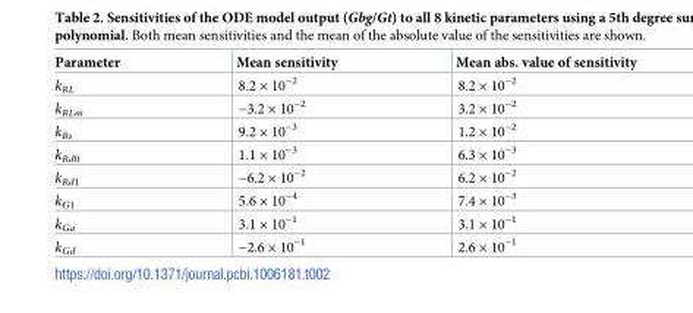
<table><thead><tr><td>Parameter</td><td>Mean sensitivity</td><td>Mean abs. value of sensitivity</td></tr></thead><tbody><tr><td>k<sub>RL</sub></td><td>8.2 × 10<sup>−2</sup></td><td>8.2 × 10<sup>−2</sup></td></tr><tr><td>k<sub>RLm</sub></td><td>−3.2 × 10<sup>−2</sup></td><td>3.2 × 10<sup>−2</sup></td></tr><tr><td>k<sub>Rs</sub></td><td>9.2 × 10<sup>−3</sup></td><td>1.2 × 10<sup>−2</sup></td></tr><tr><td>k<sub>Rd0</sub></td><td>1.1 × 10<sup>−3</sup></td><td>6.3 × 10<sup>−3</sup></td></tr><tr><td>k<sub>Rd1</sub></td><td>−6.2 × 10<sup>−2</sup></td><td>6.2 × 10<sup>−2</sup></td></tr><tr><td>k<sub>G1</sub></td><td>5.6 × 10<sup>−4</sup></td><td>7.4 × 10<sup>−3</sup></td></tr><tr><td>k<sub>Ga</sub></td><td>3.1 × 10<sup>−1</sup></td><td>3.1 × 10<sup>−1</sup></td></tr><tr><td>k<sub>Gd</sub></td><td>−2.6 × 10<sup>−1</sup></td><td>2.6 × 10<sup>−1</sup></td></tr></tbody></table>